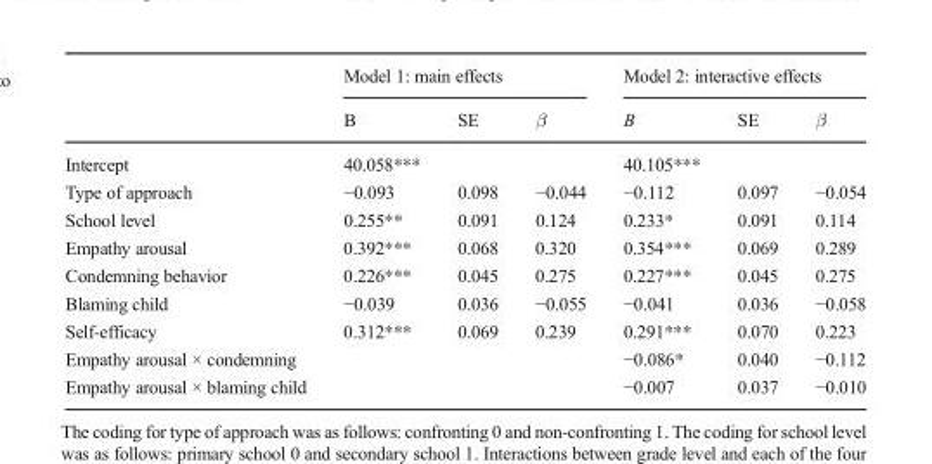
<table><thead><tr><td rowspan="2"></td><td colspan="3">Model 1: main effects</td><td colspan="3">Model 2: interactive effects</td></tr><tr><td>B</td><td>SE</td><td>β</td><td>B</td><td>SE</td><td>β</td></tr></thead><tbody><tr><td>Intercept</td><td>40.058***</td><td></td><td></td><td>40.105***</td><td></td><td></td></tr><tr><td>Type of approach</td><td>−0.093</td><td>0.098</td><td>−0.044</td><td>−0.112</td><td>0.097</td><td>−0.054</td></tr><tr><td>School level</td><td>0.255**</td><td>0.091</td><td>0.124</td><td>0.233*</td><td>0.091</td><td>0.114</td></tr><tr><td>Empathy arousal</td><td>0.392***</td><td>0.068</td><td>0.320</td><td>0.354***</td><td>0.069</td><td>0.289</td></tr><tr><td>Condemning behavior</td><td>0.226***</td><td>0.045</td><td>0.275</td><td>0.227***</td><td>0.045</td><td>0.275</td></tr><tr><td>Blaming child</td><td>−0.039</td><td>0.036</td><td>−0.055</td><td>−0.041</td><td>0.036</td><td>−0.058</td></tr><tr><td>Self-efficacy</td><td>0.312***</td><td>0.069</td><td>0.239</td><td>0.291***</td><td>0.070</td><td>0.223</td></tr><tr><td>Empathy arousal × condemning</td><td></td><td></td><td></td><td>−0.086*</td><td>0.040</td><td>−0.112</td></tr><tr><td>Empathy arousal × blaming child</td><td></td><td></td><td></td><td>−0.007</td><td>0.037</td><td>−0.010</td></tr></tbody></table>